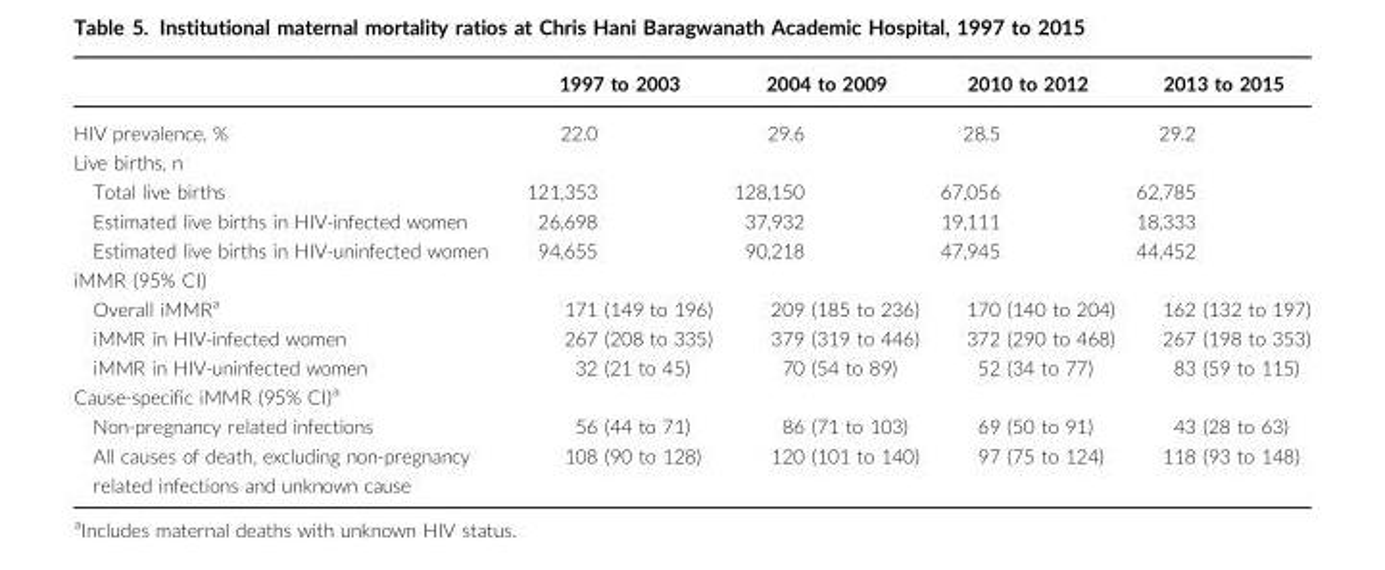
<table><thead><tr><td></td><td>1997 to 2003</td><td>2004 to 2009</td><td>2010 to 2012</td><td>2013 to 2015</td></tr></thead><tbody><tr><td>HIV prevalence, %</td><td>22.0</td><td>29.6</td><td>28.5</td><td>29.2</td></tr><tr><td colspan="5">Live births, n</td></tr><tr><td>Total live births</td><td>121,353</td><td>128,150</td><td>67,056</td><td>62,785</td></tr><tr><td>Estimated live births in HIV-infected women</td><td>26,698</td><td>37,932</td><td>19,111</td><td>18,333</td></tr><tr><td>Estimated live births in HIV-uninfected women</td><td>94,655</td><td>90,218</td><td>47,945</td><td>44,452</td></tr><tr><td colspan="5">iMMR (95% CI)</td></tr><tr><td>Overall iMMR<sup>a</sup></td><td>171 (149 to 196)</td><td>209 (185 to 236)</td><td>170 (140 to 204)</td><td>162 (132 to 197)</td></tr><tr><td>iMMR in HIV-infected women</td><td>267 (208 to 335)</td><td>379 (319 to 446)</td><td>372 (290 to 468)</td><td>267 (198 to 353)</td></tr><tr><td>iMMR in HIV-uninfected women</td><td>32 (21 to 45)</td><td>70 (54 to 89)</td><td>52 (34 to 77)</td><td>83 (59 to 115)</td></tr><tr><td colspan="5">Cause-specific iMMR (95% CI)<sup>a</sup></td></tr><tr><td>Non-pregnancy related infections</td><td>56 (44 to 71)</td><td>86 (71 to 103)</td><td>69 (50 to 91)</td><td>43 (28 to 63)</td></tr><tr><td>All causes of death, excluding non-pregnancy related infections and unknown cause</td><td>108 (90 to 128)</td><td>120 (101 to 140)</td><td>97 (75 to 124)</td><td>118 (93 to 148)</td></tr></tbody></table>